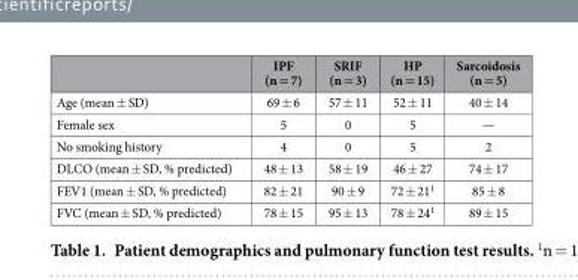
<table><thead><tr><td></td><td>IPF (n = 7)</td><td>SRIF (n = 3)</td><td>HP (n = 15)</td><td>Sarcoidosis (n = 5)</td></tr></thead><tbody><tr><td>Age (mean ± SD)</td><td>69 ± 6</td><td>57 ± 11</td><td>52 ± 11</td><td>40 ± 14</td></tr><tr><td>Female sex</td><td>5</td><td>0</td><td>5</td><td>—</td></tr><tr><td>No smoking history</td><td>4</td><td>0</td><td>5</td><td>2</td></tr><tr><td>DLCO (mean ± SD, % predicted)</td><td>48 ± 13</td><td>58 ± 19</td><td>46 ± 27</td><td>74 ± 17</td></tr><tr><td>FEV1 (mean ± SD, % predicted)</td><td>82 ± 21</td><td>90 ± 9</td><td>72 ± 21<sup>1</sup></td><td>85 ± 8</td></tr><tr><td>FVC (mean ± SD, % predicted)</td><td>78 ± 15</td><td>95 ± 13</td><td>78 ± 24<sup>1</sup></td><td>89 ± 15</td></tr></tbody></table>